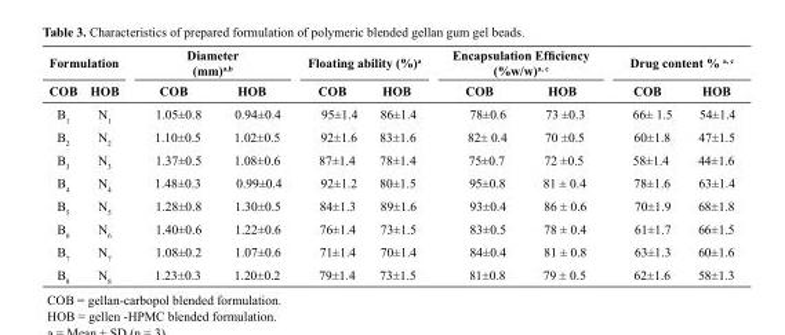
<table><thead><tr><td colspan="2">Formulation</td><td colspan="2">Diameter (mm)<sup>a</sup>,<sup>b</sup></td><td colspan="2">Floating ability (%)<sup>a</sup></td><td colspan="2">Encapsulation Efficiency (%w/w)<sup>a</sup>, <sup>c</sup></td><td colspan="2">Drug content % <sup>a</sup>, <sup>c</sup></td></tr><tr><td>COB</td><td>HOB</td><td>COB</td><td>HOB</td><td>COB</td><td>HOB</td><td>COB</td><td>HOB</td><td>COB</td><td>HOB</td></tr></thead><tbody><tr><td>B<sub>1</sub></td><td>N<sub>1</sub></td><td>1.05±0.8</td><td>0.94±0.4</td><td>95±1.4</td><td>86±1.4</td><td>78±0.6</td><td>73 ±0.3</td><td>66± 1.5</td><td>54±1.4</td></tr><tr><td>B<sub>2</sub></td><td>N<sub>2</sub></td><td>1.10±0.5</td><td>1.02±0.5</td><td>92±1.6</td><td>83±1.6</td><td>82± 0.4</td><td>70 ±0.5</td><td>60±1.8</td><td>47±1.5</td></tr><tr><td>B<sub>3</sub></td><td>N<sub>3</sub></td><td>1.37±0.5</td><td>1.08±0.6</td><td>87±1.4</td><td>78±1.4</td><td>75±0.7</td><td>72 ±0.5</td><td>58±1.4</td><td>44±1.6</td></tr><tr><td>B<sub>4</sub></td><td>N<sub>4</sub></td><td>1.48±0.3</td><td>0.99±0.4</td><td>92±1.2</td><td>80±1.5</td><td>95±0.8</td><td>81 ± 0.4</td><td>78±1.6</td><td>63±1.4</td></tr><tr><td>B<sub>5</sub></td><td>N<sub>5</sub></td><td>1.28±0.8</td><td>1.30±0.5</td><td>84±1.3</td><td>89±1.6</td><td>93±0.4</td><td>86 ± 0.6</td><td>70±1.9</td><td>68±1.8</td></tr><tr><td>B<sub>6</sub></td><td>N<sub>6</sub></td><td>1.40±0.6</td><td>1.22±0.6</td><td>76±1.4</td><td>73±1.5</td><td>83±0.5</td><td>78 ± 0.4</td><td>61±1.7</td><td>66±1.5</td></tr><tr><td>B<sub>7</sub></td><td>N<sub>7</sub></td><td>1.08±0.2</td><td>1.07±0.6</td><td>71±1.4</td><td>70±1.4</td><td>84±0.4</td><td>81 ± 0.8</td><td>63±1.3</td><td>60±1.6</td></tr><tr><td>B<sub>8</sub></td><td>N<sub>8</sub></td><td>1.23±0.3</td><td>1.20±0.2</td><td>79±1.4</td><td>73±1.5</td><td>81±0.8</td><td>79 ± 0.5</td><td>62±1.6</td><td>58±1.3</td></tr></tbody></table>